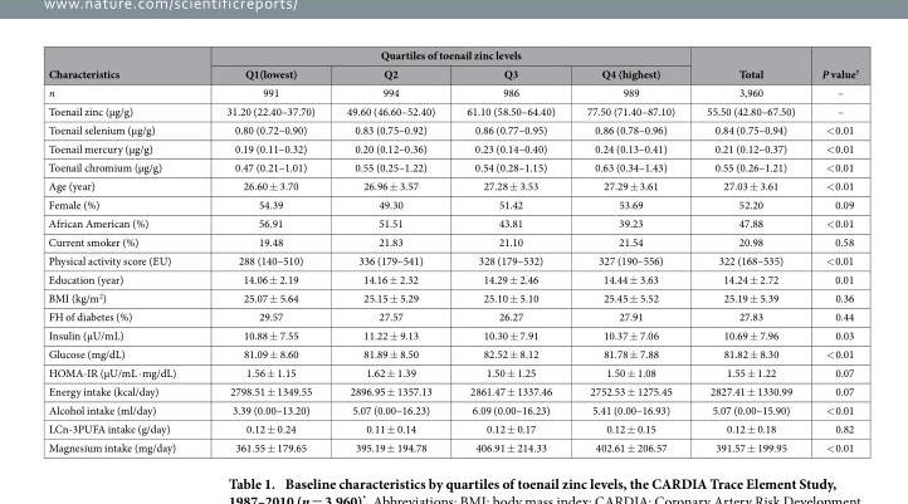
<table><thead><tr><td rowspan="2">Characteristics</td><td colspan="4">Quartiles of toenail zinc levels</td><td rowspan="2">Total</td><td rowspan="2">P value†</td></tr><tr><td>Q1(lowest)</td><td>Q2</td><td>Q3</td><td>Q4 (highest)</td></tr></thead><tbody><tr><td>n</td><td>991</td><td>994</td><td>986</td><td>989</td><td>3,960</td><td>–</td></tr><tr><td>Toenail zinc (μg/g)</td><td>31.20 (22.40–37.70)</td><td>49.60 (46.60–52.40)</td><td>61.10 (58.50–64.40)</td><td>77.50 (71.40–87.10)</td><td>55.50 (42.80–67.50)</td><td>–</td></tr><tr><td>Toenail selenium (μg/g)</td><td>0.80 (0.72–0.90)</td><td>0.83 (0.75–0.92)</td><td>0.86 (0.77–0.95)</td><td>0.86 (0.78–0.96)</td><td>0.84 (0.75–0.94)</td><td>&lt; 0.01</td></tr><tr><td>Toenail mercury (μg/g)</td><td>0.19 (0.11–0.32)</td><td>0.20 (0.12–0.36)</td><td>0.23 (0.14–0.40)</td><td>0.24 (0.13–0.41)</td><td>0.21 (0.12–0.37)</td><td>&lt; 0.01</td></tr><tr><td>Toenail chromium (μg/g)</td><td>0.47 (0.21–1.01)</td><td>0.55 (0.25–1.22)</td><td>0.54 (0.28–1.15)</td><td>0.63 (0.34–1.43)</td><td>0.55 (0.26–1.21)</td><td>&lt; 0.01</td></tr><tr><td>Age (year)</td><td>26.60 ± 3.70</td><td>26.96 ± 3.57</td><td>27.28 ± 3.53</td><td>27.29 ± 3.61</td><td>27.03 ± 3.61</td><td>&lt; 0.01</td></tr><tr><td>Female (%)</td><td>54.39</td><td>49.30</td><td>51.42</td><td>53.69</td><td>52.20</td><td>0.09</td></tr><tr><td>African American (%)</td><td>56.91</td><td>51.51</td><td>43.81</td><td>39.23</td><td>47.88</td><td>&lt; 0.01</td></tr><tr><td>Current smoker (%)</td><td>19.48</td><td>21.83</td><td>21.10</td><td>21.54</td><td>20.98</td><td>0.58</td></tr><tr><td>Physical activity score (EU)</td><td>288 (140–510)</td><td>336 (179–541)</td><td>328 (179–532)</td><td>327 (190–556)</td><td>322 (168–535)</td><td>&lt; 0.01</td></tr><tr><td>Education (year)</td><td>14.06 ± 2.19</td><td>14.16 ± 2.32</td><td>14.29 ± 2.46</td><td>14.44 ± 3.63</td><td>14.24 ± 2.72</td><td>0.01</td></tr><tr><td>BMI (kg/m<sup>2</sup>)</td><td>25.07 ± 5.64</td><td>25.15 ± 5.29</td><td>25.10 ± 5.10</td><td>25.45 ± 5.52</td><td>25.19 ± 5.39</td><td>0.36</td></tr><tr><td>FH of diabetes (%)</td><td>29.57</td><td>27.57</td><td>26.27</td><td>27.91</td><td>27.83</td><td>0.44</td></tr><tr><td>Insulin (μU/mL)</td><td>10.88 ± 7.55</td><td>11.22 ± 9.13</td><td>10.30 ± 7.91</td><td>10.37 ± 7.06</td><td>10.69 ± 7.96</td><td>0.03</td></tr><tr><td>Glucose (mg/dL)</td><td>81.09 ± 8.60</td><td>81.89 ± 8.50</td><td>82.52 ± 8.12</td><td>81.78 ± 7.88</td><td>81.82 ± 8.30</td><td>&lt; 0.01</td></tr><tr><td>HOMA-IR (μU/mL · mg/dL)</td><td>1.56 ± 1.15</td><td>1.62 ± 1.39</td><td>1.50 ± 1.25</td><td>1.50 ± 1.08</td><td>1.55 ± 1.22</td><td>0.07</td></tr><tr><td>Energy intake (kcal/day)</td><td>2798.51 ± 1349.55</td><td>2896.95 ± 1357.13</td><td>2861.47 ± 1337.46</td><td>2752.53 ± 1275.45</td><td>2827.41 ± 1330.99</td><td>0.07</td></tr><tr><td>Alcohol intake (ml/day)</td><td>3.39 (0.00–13.20)</td><td>5.07 (0.00–16.23)</td><td>6.09 (0.00–16.23)</td><td>5.41 (0.00–16.93)</td><td>5.07 (0.00–15.90)</td><td>&lt; 0.01</td></tr><tr><td>LCn-3PUFA intake (g/day)</td><td>0.12 ± 0.24</td><td>0.11 ± 0.14</td><td>0.12 ± 0.17</td><td>0.12 ± 0.15</td><td>0.12 ± 0.18</td><td>0.82</td></tr><tr><td>Magnesium intake (mg/day)</td><td>361.55 ± 179.65</td><td>395.19 ± 194.78</td><td>406.91 ± 214.33</td><td>402.61 ± 206.57</td><td>391.57 ± 199.95</td><td>&lt; 0.01</td></tr></tbody></table>